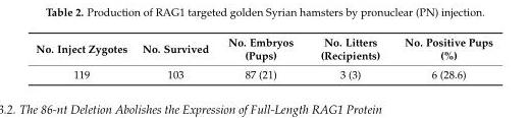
<table><thead><tr><td>No. Inject Zygotes</td><td>No. Survived</td><td>No. Embryos (Pups)</td><td>No. Litters (Recipients)</td><td>No. Positive Pups (%)</td></tr></thead><tbody><tr><td>119</td><td>103</td><td>87 (21)</td><td>3 (3)</td><td>6 (28.6)</td></tr></tbody></table>